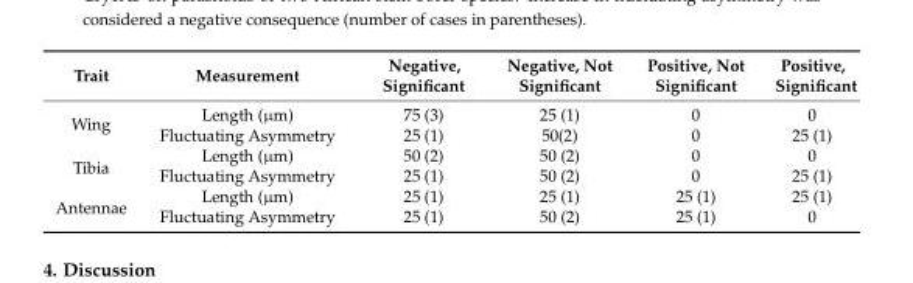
<table><thead><tr><td>Trait</td><td>Measurement</td><td>Negative, Significant</td><td>Negative, Not Significant</td><td>Positive, Not Significant</td><td>Positive, Significant</td></tr></thead><tbody><tr><td rowspan="2">Wing</td><td>Length (µm)</td><td>75 (3)</td><td>25 (1)</td><td>0</td><td>0</td></tr><tr><td>Fluctuating Asymmetry</td><td>25 (1)</td><td>50(2)</td><td>0</td><td>25 (1)</td></tr><tr><td rowspan="2">Tibia</td><td>Length (µm)</td><td>50 (2)</td><td>50 (2)</td><td>0</td><td>0</td></tr><tr><td>Fluctuating Asymmetry</td><td>25 (1)</td><td>50 (2)</td><td>0</td><td>25 (1)</td></tr><tr><td rowspan="2">Antennae</td><td>Length (µm)</td><td>25 (1)</td><td>25 (1)</td><td>25 (1)</td><td>25 (1)</td></tr><tr><td>Fluctuating Asymmetry</td><td>25 (1)</td><td>50 (2)</td><td>25 (1)</td><td>0</td></tr></tbody></table>